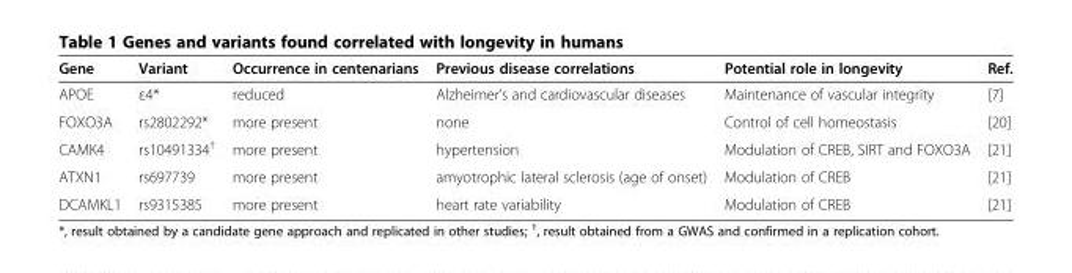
<table><thead><tr><td>Gene</td><td>Variant</td><td>Occurrence in centenarians</td><td>Previous disease correlations</td><td>Potential role in longevity</td><td>Ref.</td></tr></thead><tbody><tr><td>APOE</td><td>ε4*</td><td>reduced</td><td>Alzheimer’s and cardiovascular diseases</td><td>Maintenance of vascular integrity</td><td>[7]</td></tr><tr><td>FOXO3A</td><td>rs2802292*</td><td>more present</td><td>none</td><td>Control of cell homeostasis</td><td>[20]</td></tr><tr><td>CAMK4</td><td>rs10491334<sup>†</sup></td><td>more present</td><td>hypertension</td><td>Modulation of CREB, SIRT and FOXO3A</td><td>[21]</td></tr><tr><td>ATXN1</td><td>rs697739</td><td>more present</td><td>amyotrophic lateral sclerosis (age of onset)</td><td>Modulation of CREB</td><td>[21]</td></tr><tr><td>DCAMKL1</td><td>rs9315385</td><td>more present</td><td>heart rate variability</td><td>Modulation of CREB</td><td>[21]</td></tr></tbody></table>